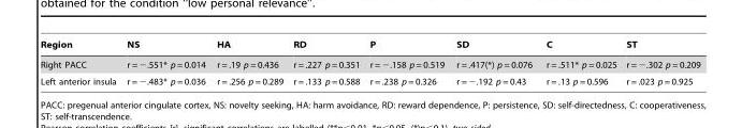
<table><thead><tr><td>Region</td><td>NS</td><td>HA</td><td>RD</td><td>P</td><td>SD</td><td>C</td><td>ST</td></tr></thead><tbody><tr><td>Right PACC</td><td>r = −.551* p = 0.014</td><td>r = .19 p = 0.436</td><td>r = .227 p = 0.351</td><td>r = −.158 p = 0.519</td><td>r = .417(*) p = 0.076</td><td>r = .511* p = 0.025</td><td>r = −.302 p = 0.209</td></tr><tr><td>Left anterior insula</td><td>r = −.483* p = 0.036</td><td>r = .256 p = 0.289</td><td>r = .133 p = 0.588</td><td>r = .238 p = 0.326</td><td>r = −.192 p = 0.43</td><td>r = .13 p = 0.596</td><td>r = .023 p = 0.925</td></tr></tbody></table>